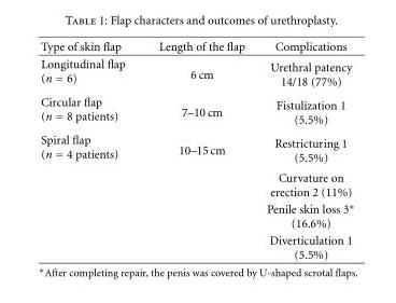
<table><thead><tr><td>Type of skin flap</td><td>Length of the flap</td><td>Complications</td></tr></thead><tbody><tr><td>Longitudinal flap (n = 6)</td><td>6 cm</td><td>Urethral patency 14/18 (77%)</td></tr><tr><td>Circular flap (n = 8 patients)</td><td>7–10 cm</td><td>Fistulization 1 (5.5%)</td></tr><tr><td rowspan="4">Spiral flap (n = 4 patients)</td><td>10–15 cm</td><td>Restricturing 1 (5.5%)</td></tr><tr><td></td><td>Curvature on erection 2 (11%)</td></tr><tr><td></td><td>Penile skin loss 3∗ (16.6%)</td></tr><tr><td></td><td>Diverticulation 1 (5.5%)</td></tr></tbody></table>